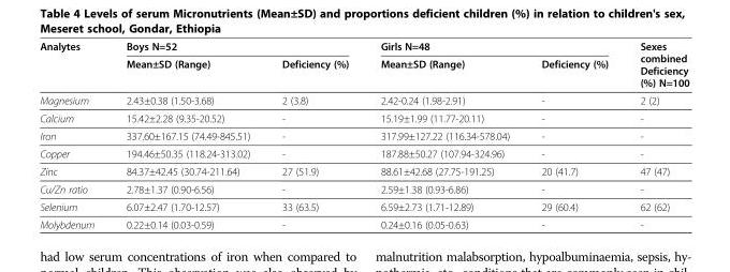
<table><thead><tr><td rowspan="2">Analytes</td><td colspan="2">Boys N=52</td><td colspan="2">Girls N=48</td><td rowspan="2">Sexes combined Deficiency (%) N=100</td></tr><tr><td>Mean±SD (Range)</td><td>Deficiency (%)</td><td>Mean±SD (Range)</td><td>Deficiency (%)</td></tr></thead><tbody><tr><td>Magnesium</td><td>2.43±0.38 (1.50-3.68)</td><td>2 (3.8)</td><td>2.42-0.24 (1.98-2.91)</td><td>-</td><td>2 (2)</td></tr><tr><td>Calcium</td><td>15.42±2.28 (9.35-20.52)</td><td>-</td><td>15.19±1.99 (11.77-20.11)</td><td>-</td><td>-</td></tr><tr><td>Iron</td><td>337.60±167.15 (74.49-845.51)</td><td>-</td><td>317.99±127.22 (116.34-578.04)</td><td>-</td><td>-</td></tr><tr><td>Copper</td><td>194.46±50.35 (118.24-313.02)</td><td>-</td><td>187.88±50.27 (107.94-324.96)</td><td>-</td><td>-</td></tr><tr><td>Zinc</td><td>84.37±42.45 (30.74-211.64)</td><td>27 (51.9)</td><td>88.61±42.68 (27.75-191.25)</td><td>20 (41.7)</td><td>47 (47)</td></tr><tr><td>Cu/Zn ratio</td><td>2.78±1.37 (0.90-6.56)</td><td>-</td><td>2.59±1.38 (0.93-6.86)</td><td>-</td><td>-</td></tr><tr><td>Selenium</td><td>6.07±2.47 (1.70-12.57)</td><td>33 (63.5)</td><td>6.59±2.73 (1.71-12.89)</td><td>29 (60.4)</td><td>62 (62)</td></tr><tr><td>Molybdenum</td><td>0.22±0.14 (0.03-0.59)</td><td>-</td><td>0.24±0.16 (0.05-0.63)</td><td>-</td><td>-</td></tr></tbody></table>